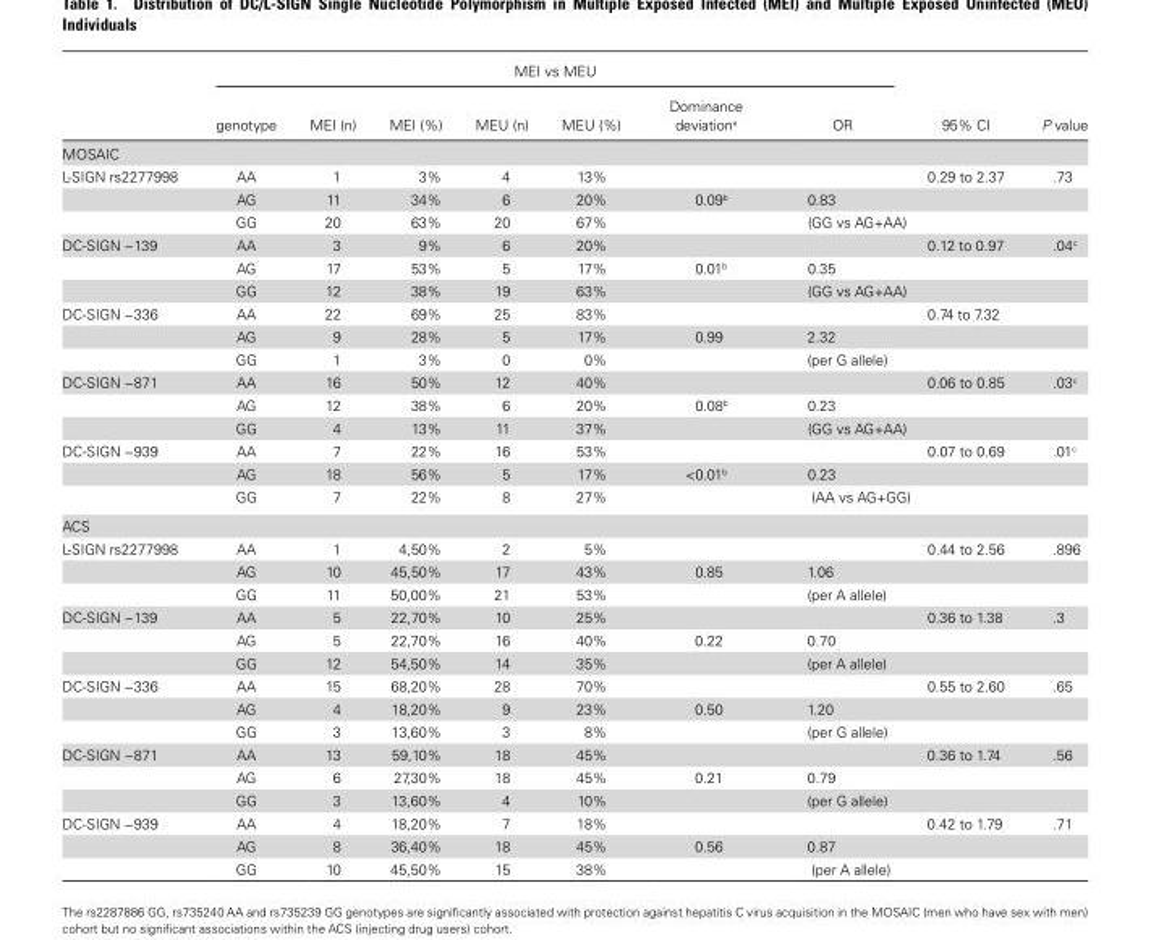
<table><thead><tr><td rowspan="2"></td><td colspan="7">MEI vs MEU</td><td rowspan="2">95% CI</td><td rowspan="2">P value</td></tr><tr><td>genotype</td><td>MEI (n)</td><td>MEI (%)</td><td>MEU (n)</td><td>MEU (%)</td><td>Dominance deviation<sup>a</sup></td><td>OR</td></tr></thead><tbody><tr><td colspan="10">MOSAIC</td></tr><tr><td rowspan="3">L-SIGN rs2277998</td><td>AA</td><td>1</td><td>3%</td><td>4</td><td>13%</td><td></td><td></td><td>0.29 to 2.37</td><td>.73</td></tr><tr><td>AG</td><td>11</td><td>34%</td><td>6</td><td>20%</td><td>0.09<sup>b</sup></td><td>0.83</td><td></td><td></td></tr><tr><td>GG</td><td>20</td><td>63%</td><td>20</td><td>67%</td><td></td><td>(GG vs AG+AA)</td><td></td><td></td></tr><tr><td rowspan="3">DC-SIGN −139</td><td>AA</td><td>3</td><td>9%</td><td>6</td><td>20%</td><td></td><td></td><td>0.12 to 0.97</td><td>.04<sup>c</sup></td></tr><tr><td>AG</td><td>17</td><td>53%</td><td>5</td><td>17%</td><td>0.01<sup>b</sup></td><td>0.35</td><td></td><td></td></tr><tr><td>GG</td><td>12</td><td>38%</td><td>19</td><td>63%</td><td></td><td>(GG vs AG+AA)</td><td></td><td></td></tr><tr><td rowspan="3">DC-SIGN −336</td><td>AA</td><td>22</td><td>69%</td><td>25</td><td>83%</td><td></td><td></td><td>0.74 to 7.32</td><td></td></tr><tr><td>AG</td><td>9</td><td>28%</td><td>5</td><td>17%</td><td>0.99</td><td>2.32</td><td></td><td></td></tr><tr><td>GG</td><td>1</td><td>3%</td><td>0</td><td>0%</td><td></td><td>(per G allele)</td><td></td><td></td></tr><tr><td rowspan="3">DC-SIGN −871</td><td>AA</td><td>16</td><td>50%</td><td>12</td><td>40%</td><td></td><td></td><td>0.06 to 0.85</td><td>.03<sup>c</sup></td></tr><tr><td>AG</td><td>12</td><td>38%</td><td>6</td><td>20%</td><td>0.08<sup>b</sup></td><td>0.23</td><td></td><td></td></tr><tr><td>GG</td><td>4</td><td>13%</td><td>11</td><td>37%</td><td></td><td>(GG vs AG+AA)</td><td></td><td></td></tr><tr><td rowspan="3">DC-SIGN −939</td><td>AA</td><td>7</td><td>22%</td><td>16</td><td>53%</td><td></td><td></td><td>0.07 to 0.69</td><td>.01<sup>c</sup></td></tr><tr><td>AG</td><td>18</td><td>56%</td><td>5</td><td>17%</td><td>&lt;0.01<sup>b</sup></td><td>0.23</td><td></td><td></td></tr><tr><td>GG</td><td>7</td><td>22%</td><td>8</td><td>27%</td><td></td><td>(AA vs AG+GG)</td><td></td><td></td></tr><tr><td colspan="10">ACS</td></tr><tr><td rowspan="3">L-SIGN rs2277998</td><td>AA</td><td>1</td><td>4,50%</td><td>2</td><td>5%</td><td></td><td></td><td>0.44 to 2.56</td><td>.896</td></tr><tr><td>AG</td><td>10</td><td>45,50%</td><td>17</td><td>43%</td><td>0.85</td><td>1.06</td><td></td><td></td></tr><tr><td>GG</td><td>11</td><td>50,00%</td><td>21</td><td>53%</td><td></td><td>(per A allele)</td><td></td><td></td></tr><tr><td rowspan="3">DC-SIGN −139</td><td>AA</td><td>5</td><td>22,70%</td><td>10</td><td>25%</td><td></td><td></td><td>0.36 to 1.38</td><td>.3</td></tr><tr><td>AG</td><td>5</td><td>22,70%</td><td>16</td><td>40%</td><td>0.22</td><td>0.70</td><td></td><td></td></tr><tr><td>GG</td><td>12</td><td>54,50%</td><td>14</td><td>35%</td><td></td><td>(per A allele)</td><td></td><td></td></tr><tr><td rowspan="3">DC-SIGN −336</td><td>AA</td><td>15</td><td>68,20%</td><td>28</td><td>70%</td><td></td><td></td><td>0.55 to 2.60</td><td>.65</td></tr><tr><td>AG</td><td>4</td><td>18,20%</td><td>9</td><td>23%</td><td>0.50</td><td>1.20</td><td></td><td></td></tr><tr><td>GG</td><td>3</td><td>13,60%</td><td>3</td><td>8%</td><td></td><td>(per G allele)</td><td></td><td></td></tr><tr><td rowspan="3">DC-SIGN −871</td><td>AA</td><td>13</td><td>59,10%</td><td>18</td><td>45%</td><td></td><td></td><td>0.36 to 1.74</td><td>.56</td></tr><tr><td>AG</td><td>6</td><td>27,30%</td><td>18</td><td>45%</td><td>0.21</td><td>0.79</td><td></td><td></td></tr><tr><td>GG</td><td>3</td><td>13,60%</td><td>4</td><td>10%</td><td></td><td>(per G allele)</td><td></td><td></td></tr><tr><td rowspan="3">DC-SIGN −939</td><td>AA</td><td>4</td><td>18,20%</td><td>7</td><td>18%</td><td></td><td></td><td>0.42 to 1.79</td><td>.71</td></tr><tr><td>AG</td><td>8</td><td>36,40%</td><td>18</td><td>45%</td><td>0.56</td><td>0.87</td><td></td><td></td></tr><tr><td>GG</td><td>10</td><td>45,50%</td><td>15</td><td>38%</td><td></td><td>(per A allele)</td><td></td><td></td></tr></tbody></table>